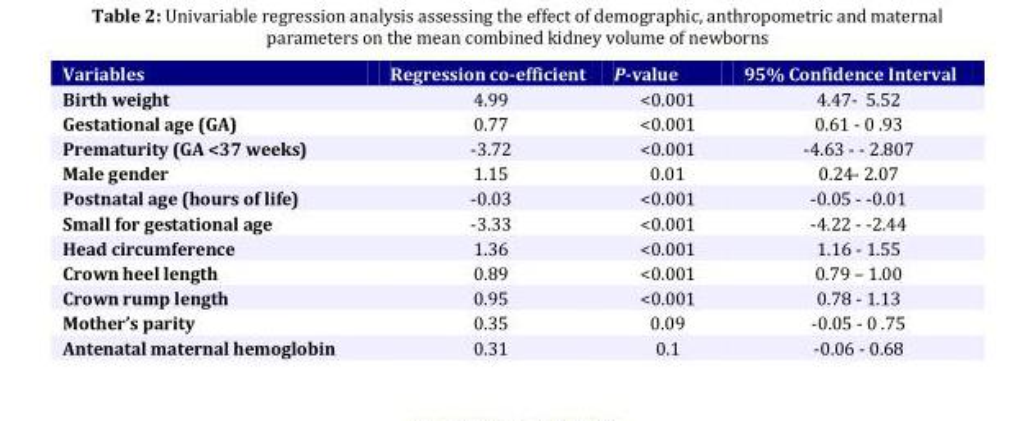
<table><thead><tr><td>Variables</td><td>Regression co-efficient</td><td>P-value</td><td>95% Confidence Interval</td></tr></thead><tbody><tr><td>Birth weight</td><td>4.99</td><td>&lt;0.001</td><td>4.47- 5.52</td></tr><tr><td>Gestational age (GA)</td><td>0.77</td><td>&lt;0.001</td><td>0.61 - 0 .93</td></tr><tr><td>Prematurity (GA &lt;37 weeks)</td><td>-3.72</td><td>&lt;0.001</td><td>-4.63 - - 2.807</td></tr><tr><td>Male gender</td><td>1.15</td><td>0.01</td><td>0.24- 2.07</td></tr><tr><td>Postnatal age (hours of life)</td><td>-0.03</td><td>&lt;0.001</td><td>-0.05 - -0.01</td></tr><tr><td>Small for gestational age</td><td>-3.33</td><td>&lt;0.001</td><td>-4.22 - -2.44</td></tr><tr><td>Head circumference</td><td>1.36</td><td>&lt;0.001</td><td>1.16 - 1.55</td></tr><tr><td>Crown heel length</td><td>0.89</td><td>&lt;0.001</td><td>0.79 – 1.00</td></tr><tr><td>Crown rump length</td><td>0.95</td><td>&lt;0.001</td><td>0.78 - 1.13</td></tr><tr><td>Mother’s parity</td><td>0.35</td><td>0.09</td><td>-0.05 - 0 .75</td></tr><tr><td>Antenatal maternal hemoglobin</td><td>0.31</td><td>0.1</td><td>-0.06 - 0.68</td></tr></tbody></table>